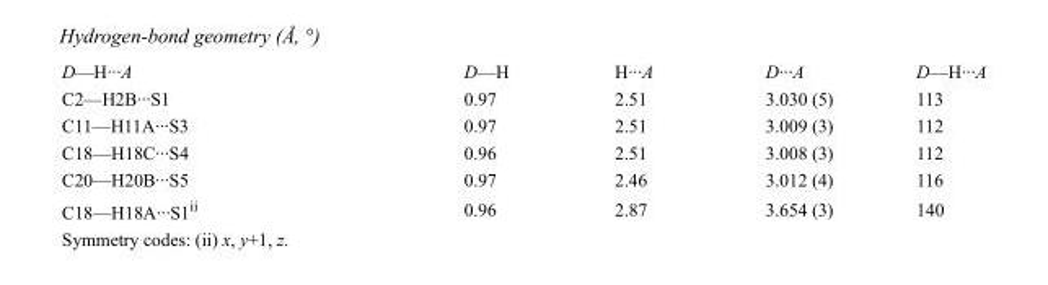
<table><tbody><tr><td>D—H···A</td><td>D—H</td><td>H···A</td><td>D···A</td><td>D—H···A</td></tr><tr><td>C2—H2B···S1</td><td>0.97</td><td>2.51</td><td>3.030 (5)</td><td>113</td></tr><tr><td>C11—H11A···S3</td><td>0.97</td><td>2.51</td><td>3.009 (3)</td><td>112</td></tr><tr><td>C18—H18C···S4</td><td>0.96</td><td>2.51</td><td>3.008 (3)</td><td>112</td></tr><tr><td>C20—H20B···S5</td><td>0.97</td><td>2.46</td><td>3.012 (4)</td><td>116</td></tr><tr><td>C18—H18A···S1<sup>ii</sup></td><td>0.96</td><td>2.87</td><td>3.654 (3)</td><td>140</td></tr></tbody></table>